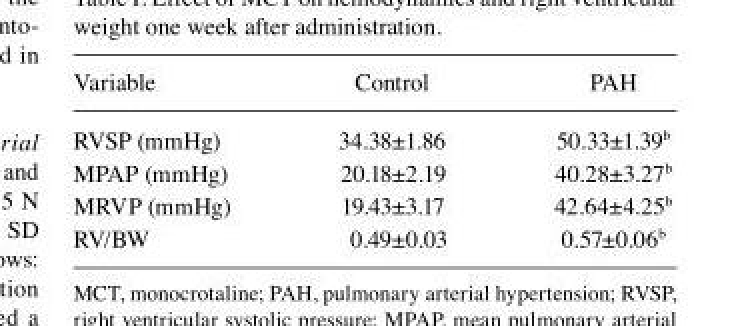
<table><thead><tr><td>Variable</td><td>Control</td><td>PAH</td></tr></thead><tbody><tr><td>RVSP (mmHg)</td><td>34.38±1.86</td><td>50.33±1.39<sup>b</sup></td></tr><tr><td>MPAP (mmHg)</td><td>20.18±2.19</td><td>40.28±3.27<sup>b</sup></td></tr><tr><td>MRVP (mmHg)</td><td>19.43±3.17</td><td>42.64±4.25<sup>b</sup></td></tr><tr><td>RV/BW</td><td>0.49±0.03</td><td>0.57±0.06<sup>b</sup></td></tr></tbody></table>